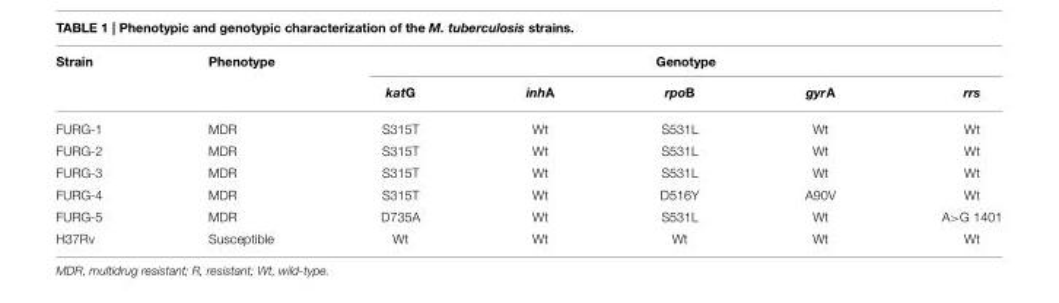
<table><thead><tr><td rowspan="2">Strain</td><td rowspan="2">Phenotype</td><td colspan="5">Genotype</td></tr><tr><td>katG</td><td>inhA</td><td>rpoB</td><td>gyrA</td><td>rrs</td></tr></thead><tbody><tr><td>FURG-1</td><td>MDR</td><td>S315T</td><td>Wt</td><td>S531L</td><td>Wt</td><td>Wt</td></tr><tr><td>FURG-2</td><td>MDR</td><td>S315T</td><td>Wt</td><td>S531L</td><td>Wt</td><td>Wt</td></tr><tr><td>FURG-3</td><td>MDR</td><td>S315T</td><td>Wt</td><td>S531L</td><td>Wt</td><td>Wt</td></tr><tr><td>FURG-4</td><td>MDR</td><td>S315T</td><td>Wt</td><td>D516Y</td><td>A90V</td><td>Wt</td></tr><tr><td>FURG-5</td><td>MDR</td><td>D735A</td><td>Wt</td><td>S531L</td><td>Wt</td><td>A&gt;G 1401</td></tr><tr><td>H37Rv</td><td>Susceptible</td><td>Wt</td><td>Wt</td><td>Wt</td><td>Wt</td><td>Wt</td></tr></tbody></table>